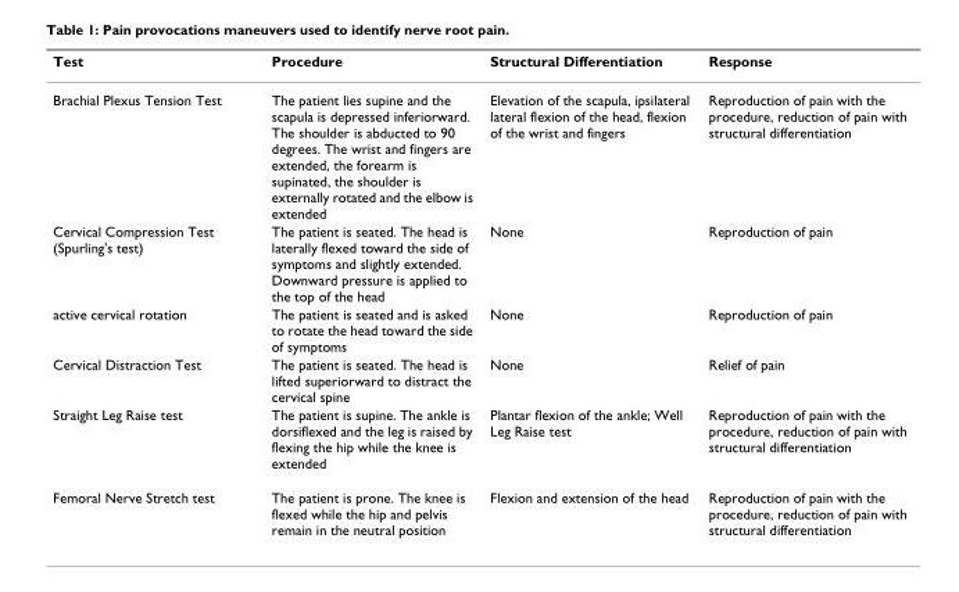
<table><thead><tr><td>Test</td><td>Procedure</td><td>Structural Differentiation</td><td>Response</td></tr></thead><tbody><tr><td>Brachial Plexus Tension Test</td><td>The patient lies supine and the scapula is depressed inferiorward. The shoulder is abducted to 90 degrees. The wrist and fingers are extended, the forearm is supinated, the shoulder is externally rotated and the elbow is extended</td><td>Elevation of the scapula, ipsilateral lateral flexion of the head, flexion of the wrist and fingers</td><td>Reproduction of pain with the procedure, reduction of pain with structural differentiation</td></tr><tr><td>Cervical Compression Test (Spurling&#x27;s test)</td><td>The patient is seated. The head is laterally flexed toward the side of symptoms and slightly extended. Downward pressure is applied to the top of the head</td><td>None</td><td>Reproduction of pain</td></tr><tr><td>active cervical rotation</td><td>The patient is seated and is asked to rotate the head toward the side of symptoms</td><td>None</td><td>Reproduction of pain</td></tr><tr><td>Cervical Distraction Test</td><td>The patient is seated. The head is lifted superiorward to distract the cervical spine</td><td>None</td><td>Relief of pain</td></tr><tr><td>Straight Leg Raise test</td><td>The patient is supine. The ankle is dorsiflexed and the leg is raised by flexing the hip while the knee is extended</td><td>Plantar flexion of the ankle; Well Leg Raise test</td><td>Reproduction of pain with the procedure, reduction of pain with structural differentiation</td></tr><tr><td>Femoral Nerve Stretch test</td><td>The patient is prone. The knee is flexed while the hip and pelvis remain in the neutral position</td><td>Flexion and extension of the head</td><td>Reproduction of pain with the procedure, reduction of pain with structural differentiation</td></tr></tbody></table>